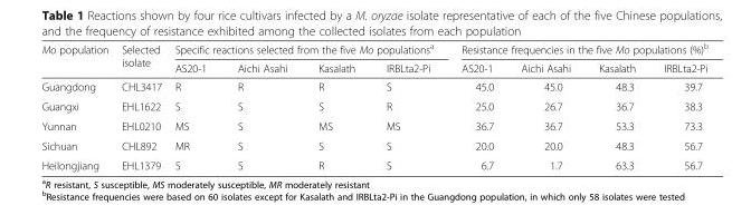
<table><thead><tr><td rowspan="2">Mo population</td><td rowspan="2">Selected isolate</td><td colspan="4">Specific reactions selected from the five Mo populations<sup>a</sup></td><td colspan="4">Resistance frequencies in the five Mo populations (%)<sup>b</sup></td></tr><tr><td>AS20-1</td><td>Aichi Asahi</td><td>Kasalath</td><td>IRBLta2-Pi</td><td>AS20-1</td><td>Aichi Asahi</td><td>Kasalath</td><td>IRBLta2-Pi</td></tr></thead><tbody><tr><td>Guangdong</td><td>CHL3417</td><td>R</td><td>R</td><td>R</td><td>S</td><td>45.0</td><td>45.0</td><td>48.3</td><td>39.7</td></tr><tr><td>Guangxi</td><td>EHL1622</td><td>S</td><td>S</td><td>S</td><td>R</td><td>25.0</td><td>26.7</td><td>36.7</td><td>38.3</td></tr><tr><td>Yunnan</td><td>EHL0210</td><td>MS</td><td>S</td><td>MS</td><td>MS</td><td>36.7</td><td>36.7</td><td>53.3</td><td>73.3</td></tr><tr><td>Sichuan</td><td>CHL892</td><td>MR</td><td>S</td><td>S</td><td>S</td><td>20.0</td><td>20.0</td><td>48.3</td><td>56.7</td></tr><tr><td>Heilongjiang</td><td>EHL1379</td><td>S</td><td>S</td><td>R</td><td>S</td><td>6.7</td><td>1.7</td><td>63.3</td><td>56.7</td></tr></tbody></table>